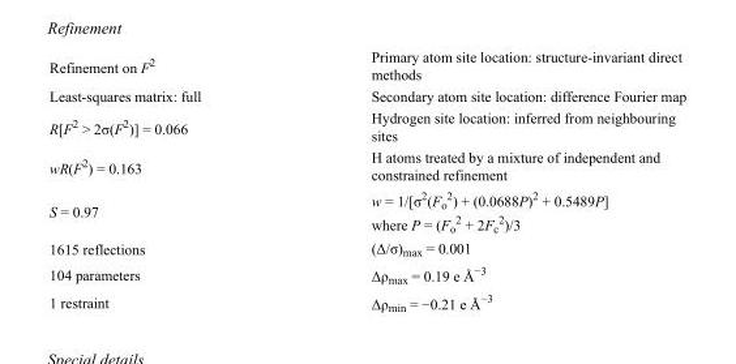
<table><tbody><tr><td>Refinement on F<sup>2</sup></td><td>Primary atom site location: structure-invariant direct methods</td></tr><tr><td>Least-squares matrix: full</td><td>Secondary atom site location: difference Fourier map</td></tr><tr><td>R[F<sup>2</sup> &gt; 2σ(F<sup>2</sup>)] = 0.066</td><td>Hydrogen site location: inferred from neighbouring sites</td></tr><tr><td>wR(F<sup>2</sup>) = 0.163</td><td>H atoms treated by a mixture of independent and constrained refinement</td></tr><tr><td>S = 0.97</td><td>w = 1/[σ<sup>2</sup>(F<sub>o</sub> <sup>2</sup>) + (0.0688P)<sup>2</sup> + 0.5489P] where P = (F<sub>o</sub> <sup>2</sup> + 2F<sub>c</sub> <sup>2</sup>)/3</td></tr><tr><td>1615 reflections</td><td>(Δ/σ)<sub>max</sub> = 0.001</td></tr><tr><td>104 parameters</td><td>Δρ<sub>max</sub> = 0.19 e Å<sup>−3</sup></td></tr><tr><td>1 restraint</td><td>Δρ<sub>min</sub> = −0.21 e Å<sup>−3</sup></td></tr></tbody></table>